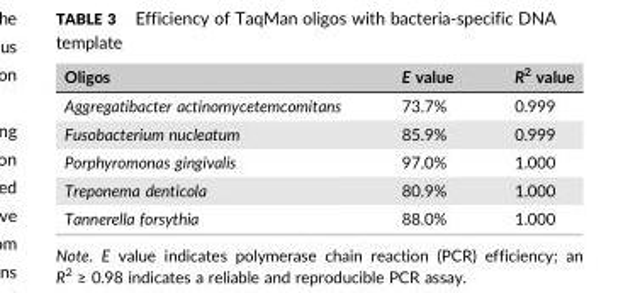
<table><thead><tr><td>Oligos</td><td>E value</td><td>R<sup>2</sup> value</td></tr></thead><tbody><tr><td>Aggregatibacter actinomycetemcomitans</td><td>73.7%</td><td>0.999</td></tr><tr><td>Fusobacterium nucleatum</td><td>85.9%</td><td>0.999</td></tr><tr><td>Porphyromonas gingivalis</td><td>97.0%</td><td>1.000</td></tr><tr><td>Treponema denticola</td><td>80.9%</td><td>1.000</td></tr><tr><td>Tannerella forsythia</td><td>88.0%</td><td>1.000</td></tr></tbody></table>